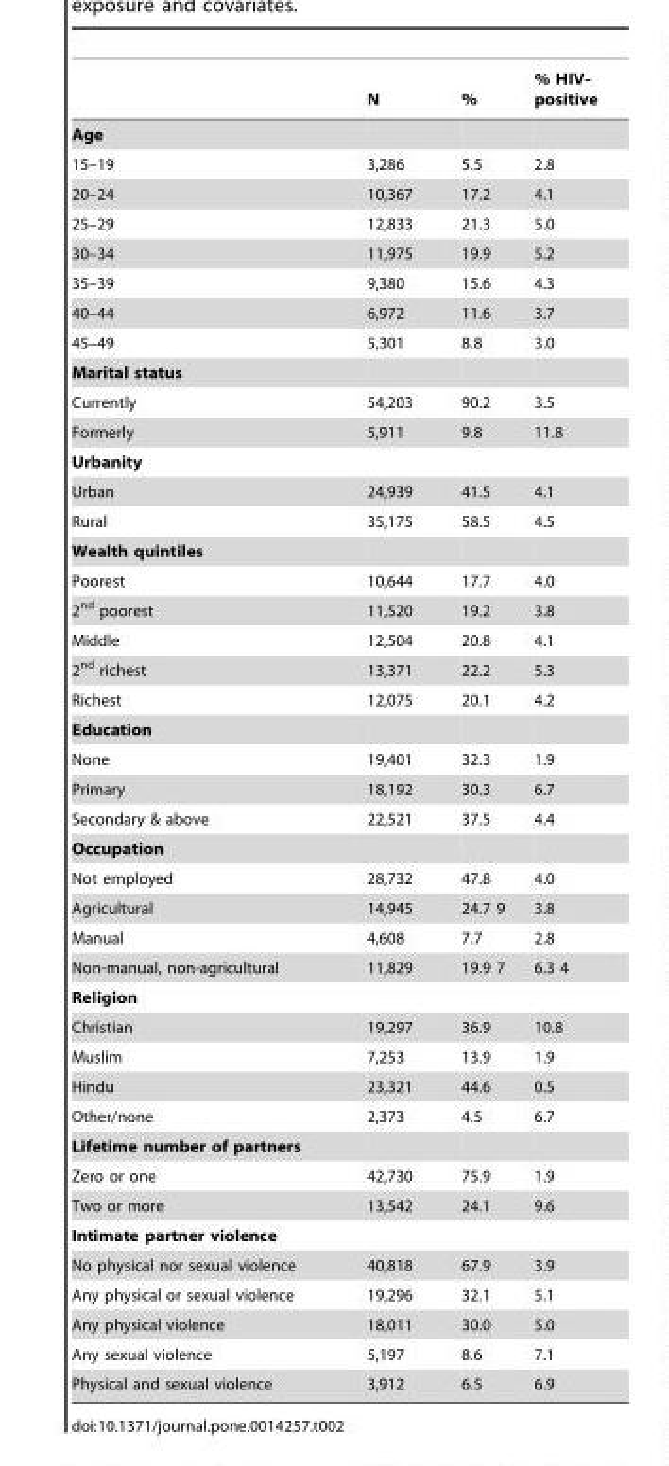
<table><thead><tr><td></td><td>N</td><td>%</td><td>% HIV- positive</td></tr></thead><tbody><tr><td colspan="4">Age</td></tr><tr><td>15–19</td><td>3,286</td><td>5.5</td><td>2.8</td></tr><tr><td>20–24</td><td>10,367</td><td>17.2</td><td>4.1</td></tr><tr><td>25–29</td><td>12,833</td><td>21.3</td><td>5.0</td></tr><tr><td>30–34</td><td>11,975</td><td>19.9</td><td>5.2</td></tr><tr><td>35–39</td><td>9,380</td><td>15.6</td><td>4.3</td></tr><tr><td>40–44</td><td>6,972</td><td>11.6</td><td>3.7</td></tr><tr><td>45–49</td><td>5,301</td><td>8.8</td><td>3.0</td></tr><tr><td colspan="4">Marital status</td></tr><tr><td>Currently</td><td>54,203</td><td>90.2</td><td>3.5</td></tr><tr><td>Formerly</td><td>5,911</td><td>9.8</td><td>11.8</td></tr><tr><td colspan="4">Urbanity</td></tr><tr><td>Urban</td><td>24,939</td><td>41.5</td><td>4.1</td></tr><tr><td>Rural</td><td>35,175</td><td>58.5</td><td>4.5</td></tr><tr><td colspan="4">Wealth quintiles</td></tr><tr><td>Poorest</td><td>10,644</td><td>17.7</td><td>4.0</td></tr><tr><td>2<sup>nd</sup> poorest</td><td>11,520</td><td>19.2</td><td>3.8</td></tr><tr><td>Middle</td><td>12,504</td><td>20.8</td><td>4.1</td></tr><tr><td>2<sup>nd</sup> richest</td><td>13,371</td><td>22.2</td><td>5.3</td></tr><tr><td>Richest</td><td>12,075</td><td>20.1</td><td>4.2</td></tr><tr><td colspan="4">Education</td></tr><tr><td>None</td><td>19,401</td><td>32.3</td><td>1.9</td></tr><tr><td>Primary</td><td>18,192</td><td>30.3</td><td>6.7</td></tr><tr><td>Secondary &amp; above</td><td>22,521</td><td>37.5</td><td>4.4</td></tr><tr><td colspan="4">Occupation</td></tr><tr><td>Not employed</td><td>28,732</td><td>47.8</td><td>4.0</td></tr><tr><td>Agricultural</td><td>14,945</td><td>24.7 9</td><td>3.8</td></tr><tr><td>Manual</td><td>4,608</td><td>7.7</td><td>2.8</td></tr><tr><td>Non-manual, non-agricultural</td><td>11,829</td><td>19.9 7</td><td>6.3 4</td></tr><tr><td colspan="4">Religion</td></tr><tr><td>Christian</td><td>19,297</td><td>36.9</td><td>10.8</td></tr><tr><td>Muslim</td><td>7,253</td><td>13.9</td><td>1.9</td></tr><tr><td>Hindu</td><td>23,321</td><td>44.6</td><td>0.5</td></tr><tr><td>Other/none</td><td>2,373</td><td>4.5</td><td>6.7</td></tr><tr><td colspan="4">Lifetime number of partners</td></tr><tr><td>Zero or one</td><td>42,730</td><td>75.9</td><td>1.9</td></tr><tr><td>Two or more</td><td>13,542</td><td>24.1</td><td>9.6</td></tr><tr><td colspan="4">Intimate partner violence</td></tr><tr><td>No physical nor sexual violence</td><td>40,818</td><td>67.9</td><td>3.9</td></tr><tr><td>Any physical or sexual violence</td><td>19,296</td><td>32.1</td><td>5.1</td></tr><tr><td>Any physical violence</td><td>18,011</td><td>30.0</td><td>5.0</td></tr><tr><td>Any sexual violence</td><td>5,197</td><td>8.6</td><td>7.1</td></tr><tr><td>Physical and sexual violence</td><td>3,912</td><td>6.5</td><td>6.9</td></tr></tbody></table>